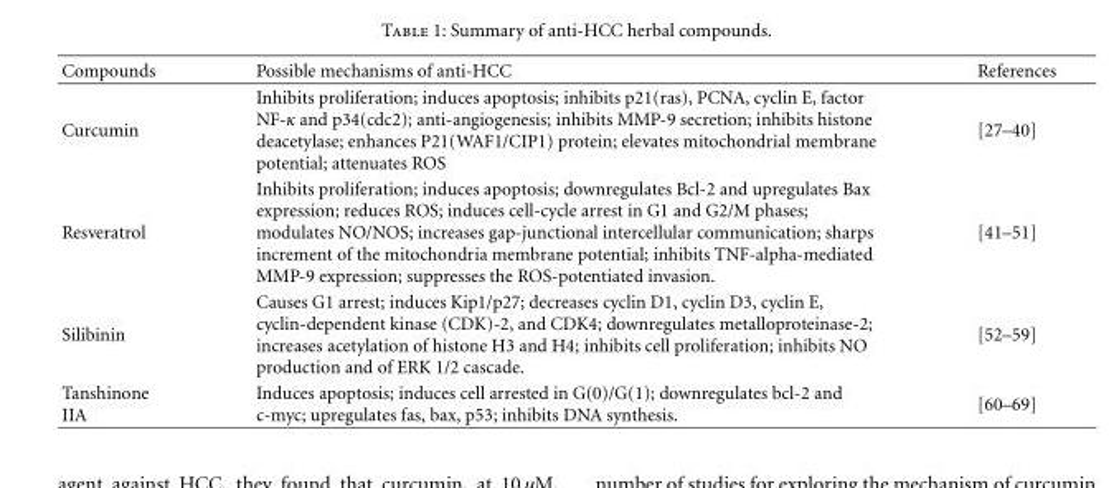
<table><thead><tr><td>Compounds</td><td>Possible mechanisms of anti-HCC</td><td>References</td></tr></thead><tbody><tr><td>Curcumin</td><td>Inhibits proliferation; induces apoptosis; inhibits p21(ras), PCNA, cyclin E, factor NF-κ and p34(cdc2); anti-angiogenesis; inhibits MMP-9 secretion; inhibits histone deacetylase; enhances P21(WAF1/CIP1) protein; elevates mitochondrial membrane potential; attenuates ROS</td><td>[27–40]</td></tr><tr><td>Resveratrol</td><td>Inhibits proliferation; induces apoptosis; downregulates Bcl-2 and upregulates Bax expression; reduces ROS; induces cell-cycle arrest in G1 and G2/M phases; modulates NO/NOS; increases gap-junctional intercellular communication; sharps increment of the mitochondria membrane potential; inhibits TNF-alpha-mediated MMP-9 expression; suppresses the ROS-potentiated invasion.</td><td>[41–51]</td></tr><tr><td>Silibinin</td><td>Causes G1 arrest; induces Kip1/p27; decreases cyclin D1, cyclin D3, cyclin E, cyclin-dependent kinase (CDK)-2, and CDK4; downregulates metalloproteinase-2; increases acetylation of histone H3 and H4; inhibits cell proliferation; inhibits NO production and of ERK 1/2 cascade.</td><td>[52–59]</td></tr><tr><td>Tanshinone IIA</td><td>Induces apoptosis; induces cell arrested in G(0)/G(1); downregulates bcl-2 and c-myc; upregulates fas, bax, p53; inhibits DNA synthesis.</td><td>[60–69]</td></tr></tbody></table>